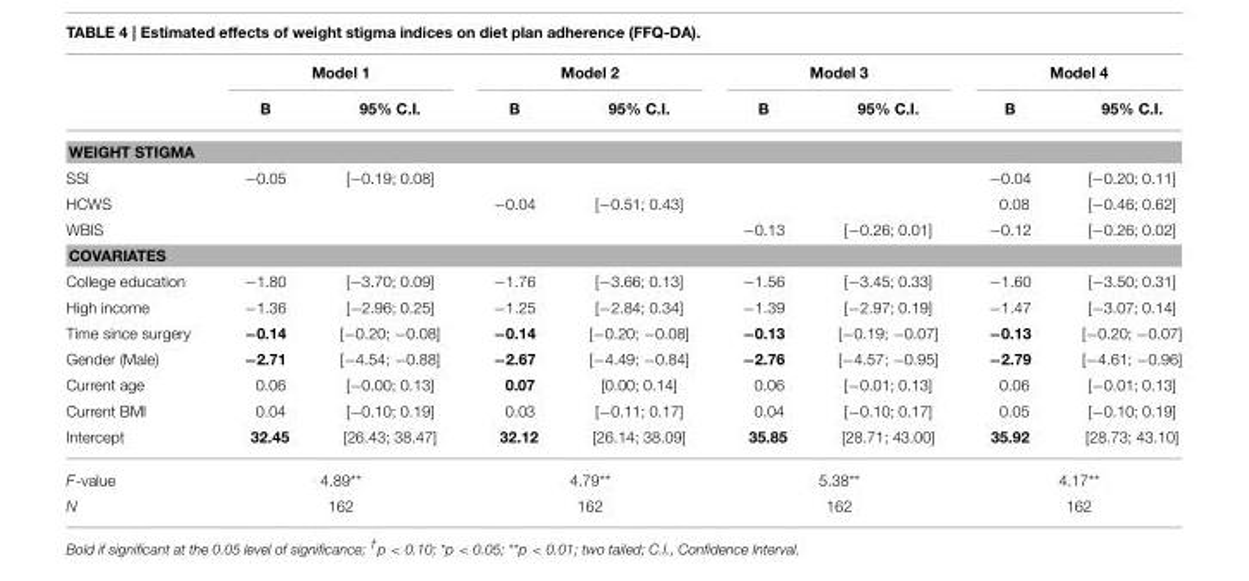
<table><thead><tr><td rowspan="2"></td><td colspan="2">Model 1</td><td colspan="2">Model 2</td><td colspan="2">Model 3</td><td colspan="2">Model 4</td></tr><tr><td>B</td><td>95% C.I.</td><td>B</td><td>95% C.I.</td><td>B</td><td>95% C.I.</td><td>B</td><td>95% C.I.</td></tr></thead><tbody><tr><td colspan="9">WEIGHT STIGMA</td></tr><tr><td>SSI</td><td>−0.05</td><td>[−0.19; 0.08]</td><td></td><td></td><td></td><td></td><td>−0.04</td><td>[−0.20; 0.11]</td></tr><tr><td>HCWS</td><td></td><td></td><td>−0.04</td><td>[−0.51; 0.43]</td><td></td><td></td><td>0.08</td><td>[−0.46; 0.62]</td></tr><tr><td>WBIS</td><td></td><td></td><td></td><td></td><td>−0.13</td><td>[−0.26; 0.01]</td><td>−0.12</td><td>[−0.26; 0.02]</td></tr><tr><td colspan="9">COVARIATES</td></tr><tr><td>College education</td><td>−1.80</td><td>[−3.70; 0.09]</td><td>−1.76</td><td>[−3.66; 0.13]</td><td>−1.56</td><td>[−3.45; 0.33]</td><td>−1.60</td><td>[−3.50; 0.31]</td></tr><tr><td>High income</td><td>−1.36</td><td>[−2.96; 0.25]</td><td>−1.25</td><td>[−2.84; 0.34]</td><td>−1.39</td><td>[−2.97; 0.19]</td><td>−1.47</td><td>[−3.07; 0.14]</td></tr><tr><td>Time since surgery</td><td>−0.14</td><td>[−0.20; −0.08]</td><td>−0.14</td><td>[−0.20; −0.08]</td><td>−0.13</td><td>[−0.19; −0.07]</td><td>−0.13</td><td>[−0.20; −0.07]</td></tr><tr><td>Gender (Male)</td><td>−2.71</td><td>[−4.54; −0.88]</td><td>−2.67</td><td>[−4.49; −0.84]</td><td>−2.76</td><td>[−4.57; −0.95]</td><td>−2.79</td><td>[−4.61; −0.96]</td></tr><tr><td>Current age</td><td>0.06</td><td>[−0.00; 0.13]</td><td>0.07</td><td>[0.00; 0.14]</td><td>0.06</td><td>[−0.01; 0.13]</td><td>0.06</td><td>[−0.01; 0.13]</td></tr><tr><td>Current BMI</td><td>0.04</td><td>[−0.10; 0.19]</td><td>0.03</td><td>[−0.11; 0.17]</td><td>0.04</td><td>[−0.10; 0.17]</td><td>0.05</td><td>[−0.10; 0.19]</td></tr><tr><td>Intercept</td><td>32.45</td><td>[26.43; 38.47]</td><td>32.12</td><td>[26.14; 38.09]</td><td>35.85</td><td>[28.71; 43.00]</td><td>35.92</td><td>[28.73; 43.10]</td></tr><tr><td>F-value</td><td colspan="2">4.89**</td><td colspan="2">4.79**</td><td colspan="2">5.38**</td><td colspan="2">4.17**</td></tr><tr><td>N</td><td colspan="2">162</td><td colspan="2">162</td><td colspan="2">162</td><td colspan="2">162</td></tr></tbody></table>